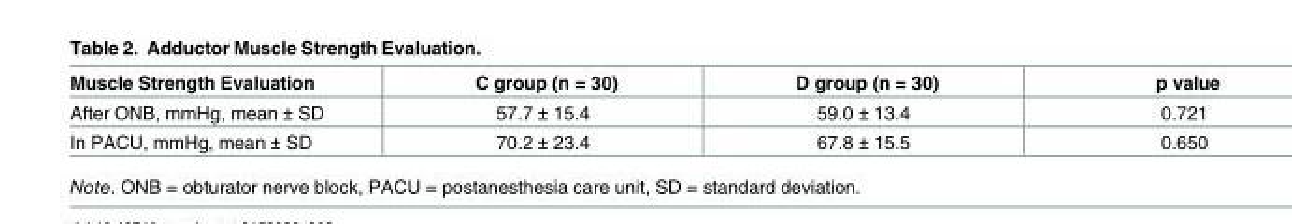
<table><thead><tr><td>Muscle Strength Evaluation</td><td>C group (n = 30)</td><td>D group (n = 30)</td><td>p value</td></tr></thead><tbody><tr><td>After ONB, mmHg, mean ± SD</td><td>57.7 ± 15.4</td><td>59.0 ± 13.4</td><td>0.721</td></tr><tr><td>In PACU, mmHg, mean ± SD</td><td>70.2 ± 23.4</td><td>67.8 ± 15.5</td><td>0.650</td></tr></tbody></table>